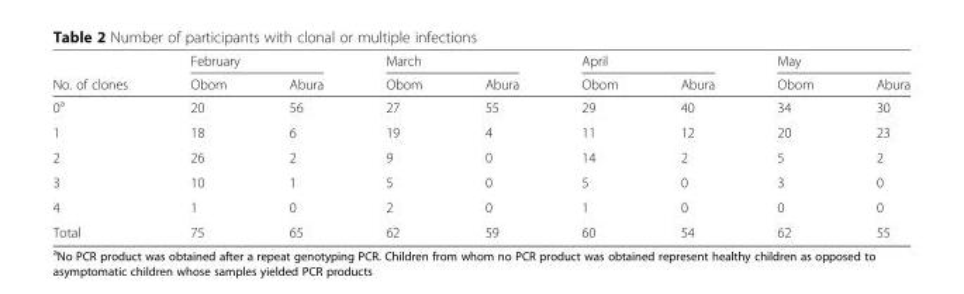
<table><thead><tr><td rowspan="2">No. of clones</td><td colspan="2">February</td><td colspan="2">March</td><td colspan="2">April</td><td colspan="2">May</td></tr><tr><td>Obom</td><td>Abura</td><td>Obom</td><td>Abura</td><td>Obom</td><td>Abura</td><td>Obom</td><td>Abura</td></tr></thead><tbody><tr><td>0<sup>a</sup></td><td>20</td><td>56</td><td>27</td><td>55</td><td>29</td><td>40</td><td>34</td><td>30</td></tr><tr><td>1</td><td>18</td><td>6</td><td>19</td><td>4</td><td>11</td><td>12</td><td>20</td><td>23</td></tr><tr><td>2</td><td>26</td><td>2</td><td>9</td><td>0</td><td>14</td><td>2</td><td>5</td><td>2</td></tr><tr><td>3</td><td>10</td><td>1</td><td>5</td><td>0</td><td>5</td><td>0</td><td>3</td><td>0</td></tr><tr><td>4</td><td>1</td><td>0</td><td>2</td><td>0</td><td>1</td><td>0</td><td>0</td><td>0</td></tr><tr><td>Total</td><td>75</td><td>65</td><td>62</td><td>59</td><td>60</td><td>54</td><td>62</td><td>55</td></tr></tbody></table>